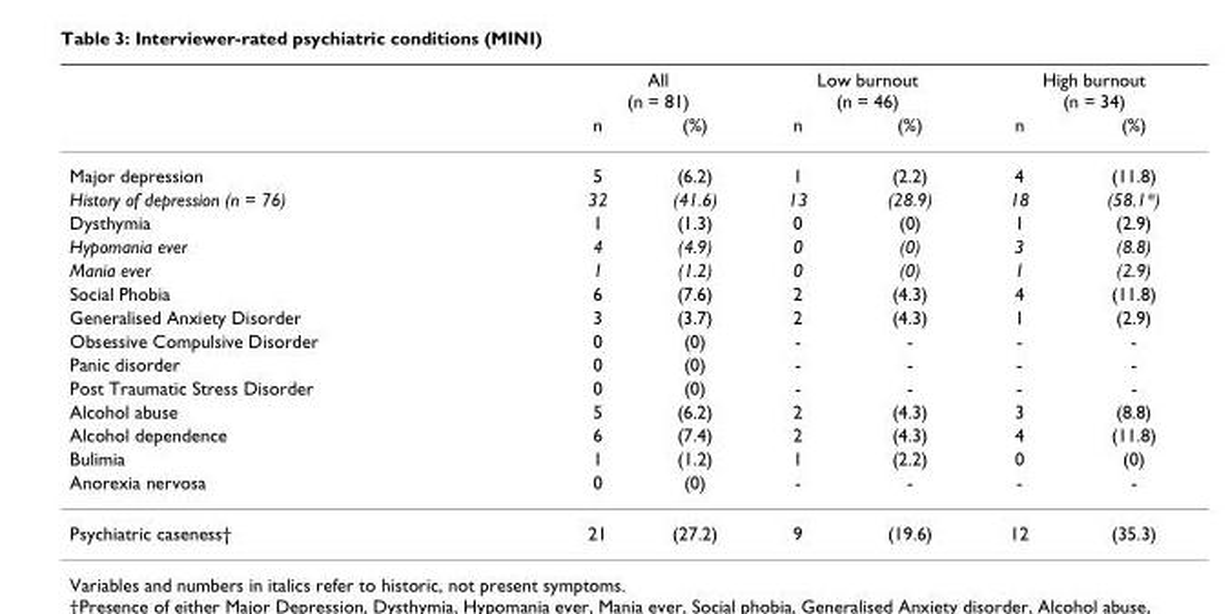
<table><thead><tr><td rowspan="2"></td><td colspan="2">All (n = 81)</td><td colspan="2">Low burnout (n = 46)</td><td colspan="2">High burnout (n = 34)</td></tr><tr><td>n</td><td>(%)</td><td>n</td><td>(%)</td><td>n</td><td>(%)</td></tr></thead><tbody><tr><td>Major depression</td><td>5</td><td>(6.2)</td><td>1</td><td>(2.2)</td><td>4</td><td>(11.8)</td></tr><tr><td>History of depression (n = 76)</td><td>32</td><td>(41.6)</td><td>13</td><td>(28.9)</td><td>18</td><td>(58.1*)</td></tr><tr><td>Dysthymia</td><td>1</td><td>(1.3)</td><td>0</td><td>(0)</td><td>1</td><td>(2.9)</td></tr><tr><td>Hypomania ever</td><td>4</td><td>(4.9)</td><td>0</td><td>(0)</td><td>3</td><td>(8.8)</td></tr><tr><td>Mania ever</td><td>1</td><td>(1.2)</td><td>0</td><td>(0)</td><td>1</td><td>(2.9)</td></tr><tr><td>Social Phobia</td><td>6</td><td>(7.6)</td><td>2</td><td>(4.3)</td><td>4</td><td>(11.8)</td></tr><tr><td>Generalised Anxiety Disorder</td><td>3</td><td>(3.7)</td><td>2</td><td>(4.3)</td><td>1</td><td>(2.9)</td></tr><tr><td>Obsessive Compulsive Disorder</td><td>0</td><td>(0)</td><td>-</td><td>-</td><td>-</td><td>-</td></tr><tr><td>Panic disorder</td><td>0</td><td>(0)</td><td>-</td><td>-</td><td>-</td><td>-</td></tr><tr><td>Post Traumatic Stress Disorder</td><td>0</td><td>(0)</td><td>-</td><td>-</td><td>-</td><td>-</td></tr><tr><td>Alcohol abuse</td><td>5</td><td>(6.2)</td><td>2</td><td>(4.3)</td><td>3</td><td>(8.8)</td></tr><tr><td>Alcohol dependence</td><td>6</td><td>(7.4)</td><td>2</td><td>(4.3)</td><td>4</td><td>(11.8)</td></tr><tr><td>Bulimia</td><td>1</td><td>(1.2)</td><td>1</td><td>(2.2)</td><td>0</td><td>(0)</td></tr><tr><td>Anorexia nervosa</td><td>0</td><td>(0)</td><td>-</td><td>-</td><td>-</td><td>-</td></tr><tr><td>Psychiatric caseness†</td><td>21</td><td>(27.2)</td><td>9</td><td>(19.6)</td><td>12</td><td>(35.3)</td></tr></tbody></table>